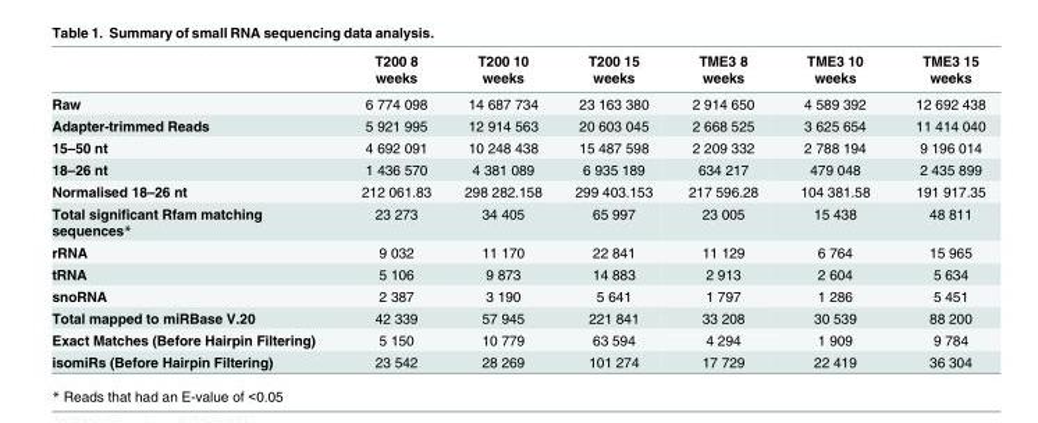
<table><thead><tr><td></td><td>T200 8 weeks</td><td>T200 10 weeks</td><td>T200 15 weeks</td><td>TME3 8 weeks</td><td>TME3 10 weeks</td><td>TME3 15 weeks</td></tr></thead><tbody><tr><td>Raw</td><td>6 774 098</td><td>14 687 734</td><td>23 163 380</td><td>2 914 650</td><td>4 589 392</td><td>12 692 438</td></tr><tr><td>Adapter-trimmed Reads</td><td>5 921 995</td><td>12 914 563</td><td>20 603 045</td><td>2 668 525</td><td>3 625 654</td><td>11 414 040</td></tr><tr><td>15–50 nt</td><td>4 692 091</td><td>10 248 438</td><td>15 487 598</td><td>2 209 332</td><td>2 788 194</td><td>9 196 014</td></tr><tr><td>18–26 nt</td><td>1 436 570</td><td>4 381 089</td><td>6 935 189</td><td>634 217</td><td>479 048</td><td>2 435 899</td></tr><tr><td>Normalised 18–26 nt</td><td>212 061.83</td><td>298 282.158</td><td>299 403.153</td><td>217 596.28</td><td>104 381.58</td><td>191 917.35</td></tr><tr><td>Total significant Rfam matching sequences*</td><td>23 273</td><td>34 405</td><td>65 997</td><td>23 005</td><td>15 438</td><td>48 811</td></tr><tr><td>rRNA</td><td>9 032</td><td>11 170</td><td>22 841</td><td>11 129</td><td>6 764</td><td>15 965</td></tr><tr><td>tRNA</td><td>5 106</td><td>9 873</td><td>14 883</td><td>2 913</td><td>2 604</td><td>5 634</td></tr><tr><td>snoRNA</td><td>2 387</td><td>3 190</td><td>5 641</td><td>1 797</td><td>1 286</td><td>5 451</td></tr><tr><td>Total mapped to miRBase V.20</td><td>42 339</td><td>57 945</td><td>221 841</td><td>33 208</td><td>30 539</td><td>88 200</td></tr><tr><td>Exact Matches (Before Hairpin Filtering)</td><td>5 150</td><td>10 779</td><td>63 594</td><td>4 294</td><td>1 909</td><td>9 784</td></tr><tr><td>isomiRs (Before Hairpin Filtering)</td><td>23 542</td><td>28 269</td><td>101 274</td><td>17 729</td><td>22 419</td><td>36 304</td></tr></tbody></table>